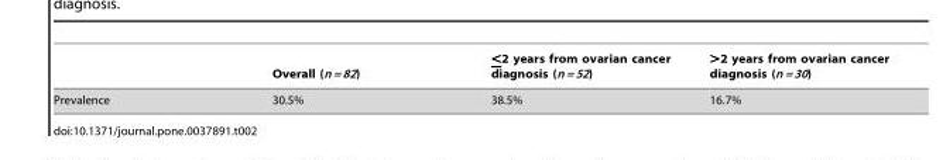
<table><thead><tr><td></td><td>Overall (n = 82)</td><td>&lt;2 years from ovarian cancer diagnosis (n = 52)</td><td>&gt;2 years from ovarian cancer diagnosis (n = 30)</td></tr></thead><tbody><tr><td>Prevalence</td><td>30.5%</td><td>38.5%</td><td>16.7%</td></tr></tbody></table>